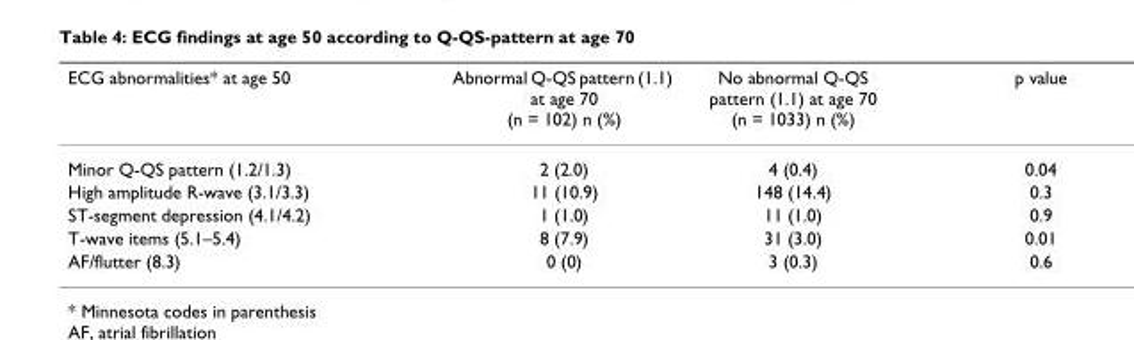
<table><thead><tr><td>ECG abnormalities* at age 50</td><td>Abnormal Q-QS pattern (1.1) at age 70 (n = 102) n (%)</td><td>No abnormal Q-QS pattern (1.1) at age 70 (n = 1033) n (%)</td><td>p value</td></tr></thead><tbody><tr><td>Minor Q-QS pattern (1.2/1.3)</td><td>2 (2.0)</td><td>4 (0.4)</td><td>0.04</td></tr><tr><td>High amplitude R-wave (3.1/3.3)</td><td>11 (10.9)</td><td>148 (14.4)</td><td>0.3</td></tr><tr><td>ST-segment depression (4.1/4.2)</td><td>1 (1.0)</td><td>11 (1.0)</td><td>0.9</td></tr><tr><td>T-wave items (5.1–5.4)</td><td>8 (7.9)</td><td>31 (3.0)</td><td>0.01</td></tr><tr><td>AF/flutter (8.3)</td><td>0 (0)</td><td>3 (0.3)</td><td>0.6</td></tr></tbody></table>